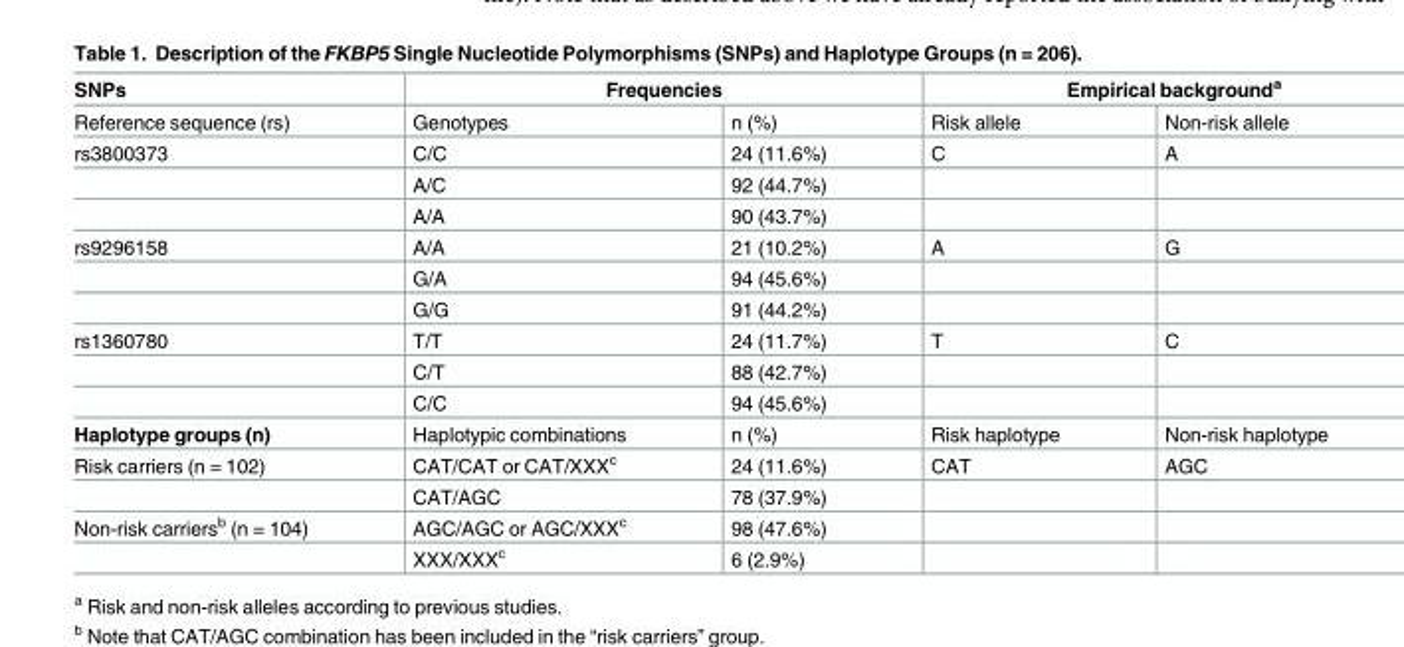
<table><thead><tr><td rowspan="2">SNPs Reference sequence (rs)</td><td colspan="2">Frequencies</td><td colspan="2">Empirical background<sup>a</sup></td></tr><tr><td>Genotypes</td><td>n (%)</td><td>Risk allele</td><td>Non-risk allele</td></tr></thead><tbody><tr><td rowspan="3">rs3800373</td><td>C/C</td><td>24 (11.6%)</td><td>C</td><td>A</td></tr><tr><td>A/C</td><td>92 (44.7%)</td><td></td><td></td></tr><tr><td>A/A</td><td>90 (43.7%)</td><td></td><td></td></tr><tr><td rowspan="3">rs9296158</td><td>A/A</td><td>21 (10.2%)</td><td>A</td><td>G</td></tr><tr><td>G/A</td><td>94 (45.6%)</td><td></td><td></td></tr><tr><td>G/G</td><td>91 (44.2%)</td><td></td><td></td></tr><tr><td rowspan="3">rs1360780</td><td>T/T</td><td>24 (11.7%)</td><td>T</td><td>C</td></tr><tr><td>C/T</td><td>88 (42.7%)</td><td></td><td></td></tr><tr><td>C/C</td><td>94 (45.6%)</td><td></td><td></td></tr><tr><td>Haplotype groups (n)</td><td>Haplotypic combinations</td><td>n (%)</td><td>Risk haplotype</td><td>Non-risk haplotype</td></tr><tr><td rowspan="2">Risk carriers (n = 102)</td><td>CAT/CAT or CAT/XXX<sup>c</sup></td><td>24 (11.6%)</td><td>CAT</td><td>AGC</td></tr><tr><td>CAT/AGC</td><td>78 (37.9%)</td><td></td><td></td></tr><tr><td rowspan="2">Non-risk carriers<sup>b</sup> (n = 104)</td><td>AGC/AGC or AGC/XXX<sup>c</sup></td><td>98 (47.6%)</td><td></td><td></td></tr><tr><td>XXX/XXX<sup>c</sup></td><td>6 (2.9%)</td><td></td><td></td></tr></tbody></table>